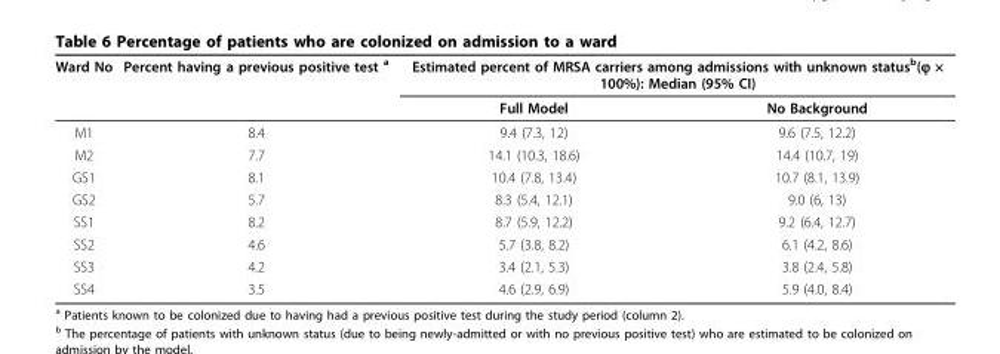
<table><thead><tr><td rowspan="2">Ward No</td><td rowspan="2">Percent having a previous positive test <sup>a</sup></td><td colspan="2">Estimated percent of MRSA carriers among admissions with unknown status<sup>b</sup>(ϕ × 100%): Median (95% CI)</td></tr><tr><td>Full Model</td><td>No Background</td></tr></thead><tbody><tr><td>M1</td><td>8.4</td><td>9.4 (7.3, 12)</td><td>9.6 (7.5, 12.2)</td></tr><tr><td>M2</td><td>7.7</td><td>14.1 (10.3, 18.6)</td><td>14.4 (10.7, 19)</td></tr><tr><td>GS1</td><td>8.1</td><td>10.4 (7.8, 13.4)</td><td>10.7 (8.1, 13.9)</td></tr><tr><td>GS2</td><td>5.7</td><td>8.3 (5.4, 12.1)</td><td>9.0 (6, 13)</td></tr><tr><td>SS1</td><td>8.2</td><td>8.7 (5.9, 12.2)</td><td>9.2 (6.4, 12.7)</td></tr><tr><td>SS2</td><td>4.6</td><td>5.7 (3.8, 8.2)</td><td>6.1 (4.2, 8.6)</td></tr><tr><td>SS3</td><td>4.2</td><td>3.4 (2.1, 5.3)</td><td>3.8 (2.4, 5.8)</td></tr><tr><td>SS4</td><td>3.5</td><td>4.6 (2.9, 6.9)</td><td>5.9 (4.0, 8.4)</td></tr></tbody></table>